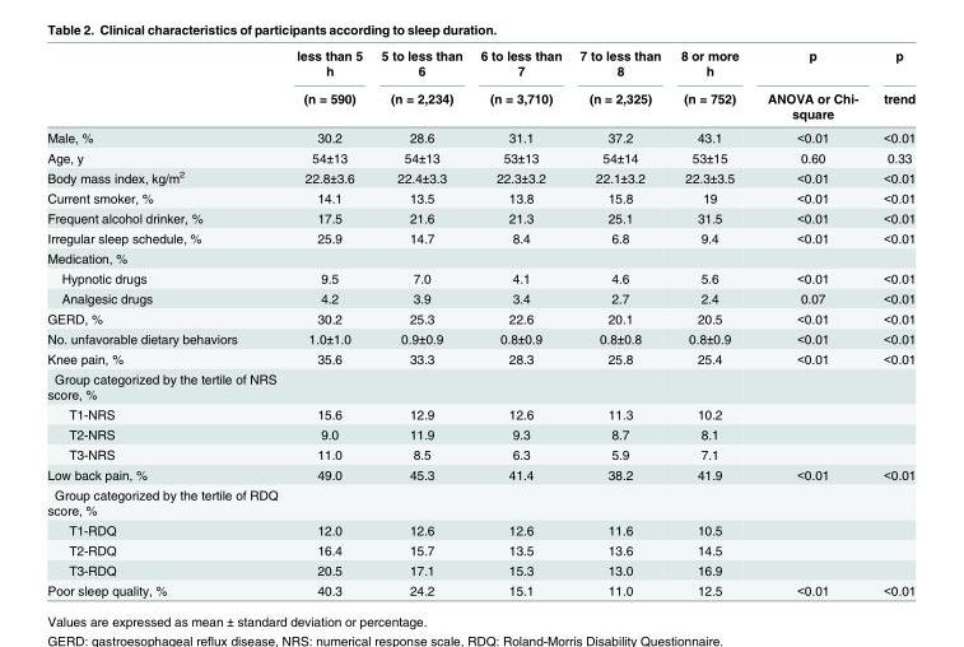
<table><thead><tr><td rowspan="2"></td><td rowspan="2">less than 5 h (n = 590)</td><td rowspan="2">5 to less than 6 (n = 2,234)</td><td rowspan="2">6 to less than 7 (n = 3,710)</td><td rowspan="2">7 to less than 8 (n = 2,325)</td><td rowspan="2">8 or more h (n = 752)</td><td rowspan="2">p ANOVA or Chi- square</td><td rowspan="2">p trend</td></tr><tr></tr></thead><tbody><tr><td>Male, %</td><td>30.2</td><td>28.6</td><td>31.1</td><td>37.2</td><td>43.1</td><td>&lt;0.01</td><td>&lt;0.01</td></tr><tr><td>Age, y</td><td>54±13</td><td>54±13</td><td>53±13</td><td>54±14</td><td>53±15</td><td>0.60</td><td>0.33</td></tr><tr><td>Body mass index, kg/m<sup>2</sup></td><td>22.8±3.6</td><td>22.4±3.3</td><td>22.3±3.2</td><td>22.1±3.2</td><td>22.3±3.5</td><td>&lt;0.01</td><td>&lt;0.01</td></tr><tr><td>Current smoker, %</td><td>14.1</td><td>13.5</td><td>13.8</td><td>15.8</td><td>19</td><td>&lt;0.01</td><td>&lt;0.01</td></tr><tr><td>Frequent alcohol drinker, %</td><td>17.5</td><td>21.6</td><td>21.3</td><td>25.1</td><td>31.5</td><td>&lt;0.01</td><td>&lt;0.01</td></tr><tr><td>Irregular sleep schedule, %</td><td>25.9</td><td>14.7</td><td>8.4</td><td>6.8</td><td>9.4</td><td>&lt;0.01</td><td>&lt;0.01</td></tr><tr><td colspan="8">Medication, %</td></tr><tr><td>Hypnotic drugs</td><td>9.5</td><td>7.0</td><td>4.1</td><td>4.6</td><td>5.6</td><td>&lt;0.01</td><td>&lt;0.01</td></tr><tr><td>Analgesic drugs</td><td>4.2</td><td>3.9</td><td>3.4</td><td>2.7</td><td>2.4</td><td>0.07</td><td>&lt;0.01</td></tr><tr><td>GERD, %</td><td>30.2</td><td>25.3</td><td>22.6</td><td>20.1</td><td>20.5</td><td>&lt;0.01</td><td>&lt;0.01</td></tr><tr><td>No. unfavorable dietary behaviors</td><td>1.0±1.0</td><td>0.9±0.9</td><td>0.8±0.9</td><td>0.8±0.8</td><td>0.8±0.9</td><td>&lt;0.01</td><td>&lt;0.01</td></tr><tr><td>Knee pain, %</td><td>35.6</td><td>33.3</td><td>28.3</td><td>25.8</td><td>25.4</td><td>&lt;0.01</td><td>&lt;0.01</td></tr><tr><td colspan="8">Group categorized by the tertile of NRS score, %</td></tr><tr><td>T1-NRS</td><td>15.6</td><td>12.9</td><td>12.6</td><td>11.3</td><td>10.2</td><td></td><td></td></tr><tr><td>T2-NRS</td><td>9.0</td><td>11.9</td><td>9.3</td><td>8.7</td><td>8.1</td><td></td><td></td></tr><tr><td>T3-NRS</td><td>11.0</td><td>8.5</td><td>6.3</td><td>5.9</td><td>7.1</td><td></td><td></td></tr><tr><td>Low back pain, %</td><td>49.0</td><td>45.3</td><td>41.4</td><td>38.2</td><td>41.9</td><td>&lt;0.01</td><td>&lt;0.01</td></tr><tr><td colspan="8">Group categorized by the tertile of RDQ score, %</td></tr><tr><td>T1-RDQ</td><td>12.0</td><td>12.6</td><td>12.6</td><td>11.6</td><td>10.5</td><td></td><td></td></tr><tr><td>T2-RDQ</td><td>16.4</td><td>15.7</td><td>13.5</td><td>13.6</td><td>14.5</td><td></td><td></td></tr><tr><td>T3-RDQ</td><td>20.5</td><td>17.1</td><td>15.3</td><td>13.0</td><td>16.9</td><td></td><td></td></tr><tr><td>Poor sleep quality, %</td><td>40.3</td><td>24.2</td><td>15.1</td><td>11.0</td><td>12.5</td><td>&lt;0.01</td><td>&lt;0.01</td></tr></tbody></table>